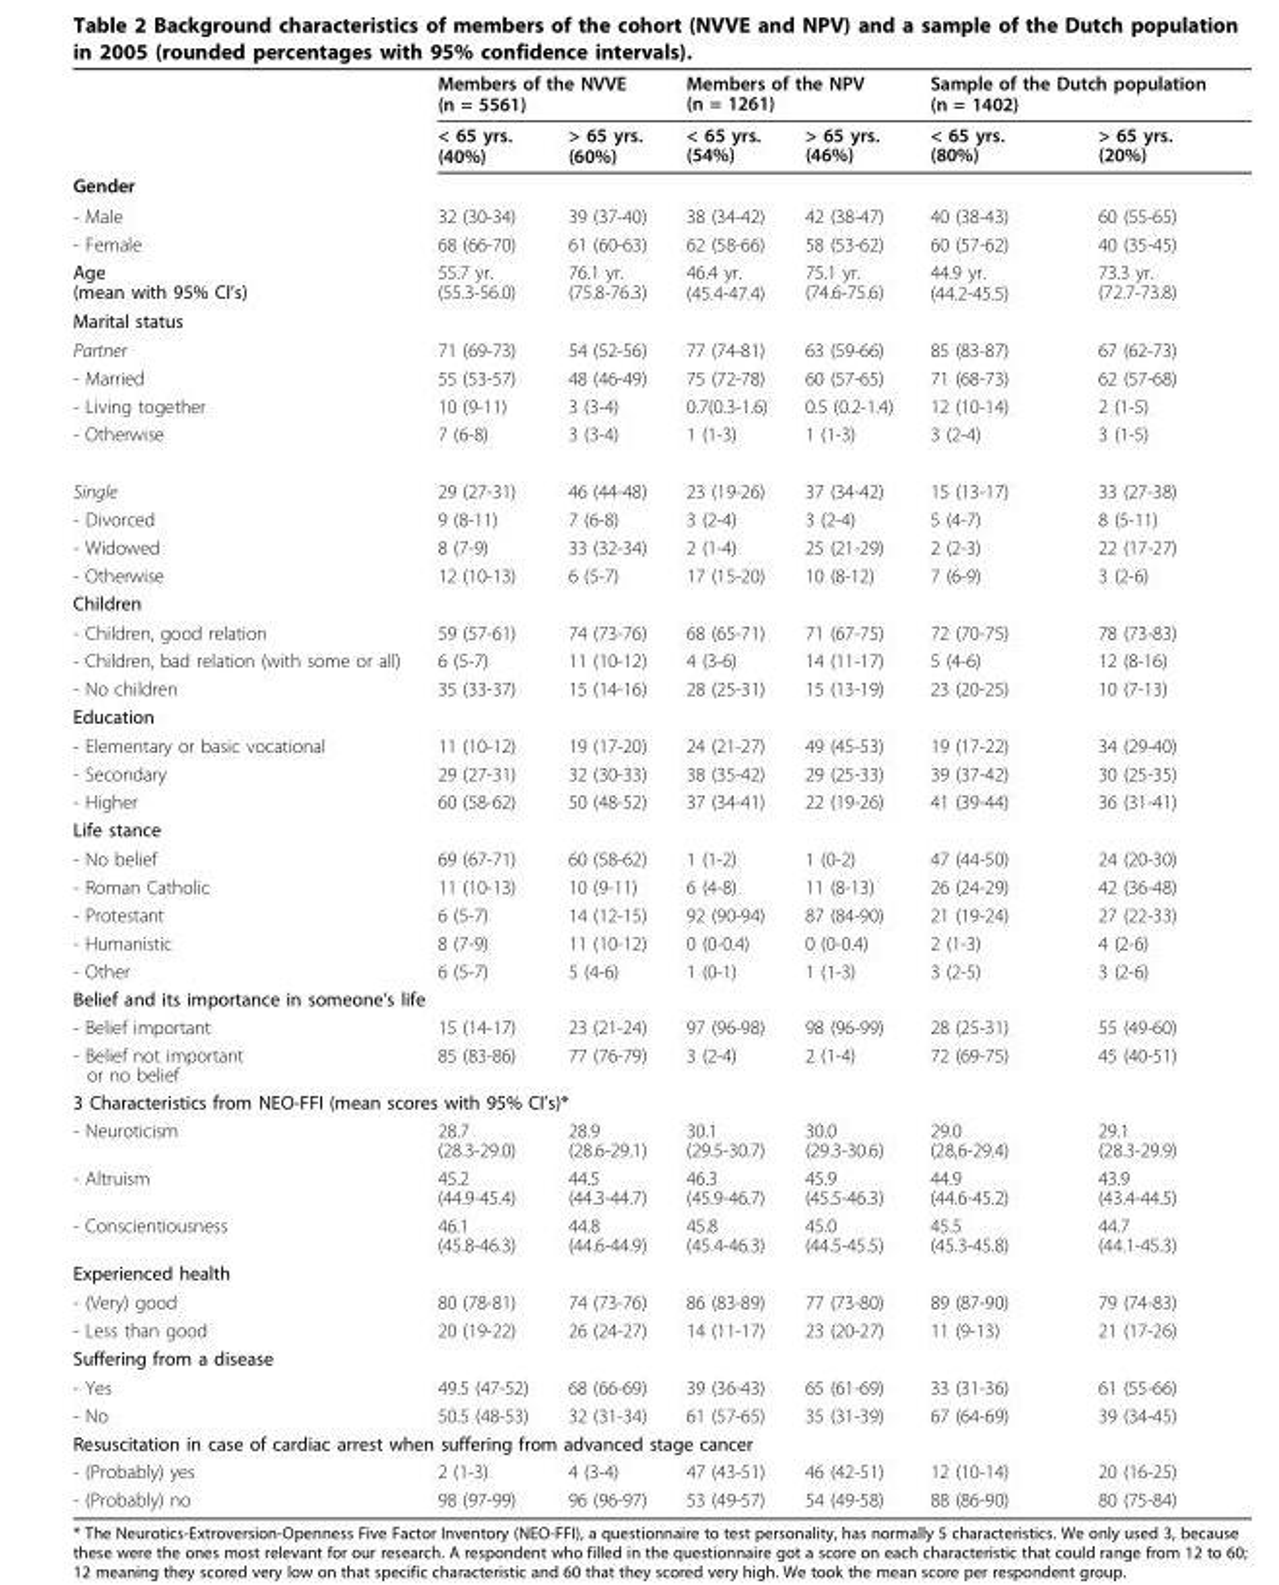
<table><thead><tr><td rowspan="2"></td><td colspan="2">Members of the NVVE (n = 5561)</td><td colspan="2">Members of the NPV (n = 1261)</td><td colspan="2">Sample of the Dutch population (n = 1402)</td></tr><tr><td>&lt; 65 yrs. (40%)</td><td>&gt; 65 yrs. (60%)</td><td>&lt; 65 yrs. (54%)</td><td>&gt; 65 yrs. (46%)</td><td>&lt; 65 yrs. (80%)</td><td>&gt; 65 yrs. (20%)</td></tr></thead><tbody><tr><td colspan="7">Gender</td></tr><tr><td>- Male</td><td>32 (30-34)</td><td>39 (37-40)</td><td>38 (34-42)</td><td>42 (38-47)</td><td>40 (38-43)</td><td>60 (55-65)</td></tr><tr><td>- Female</td><td>68 (66-70)</td><td>61 (60-63)</td><td>62 (58-66)</td><td>58 (53-62)</td><td>60 (57-62)</td><td>40 (35-45)</td></tr><tr><td>Age (mean with 95% CI’s)</td><td>55.7 yr. (55.3-56.0)</td><td>76.1 yr. (75.8-76.3)</td><td>46.4 yr. (45.4-47.4)</td><td>75.1 yr. (74.6-75.6)</td><td>44.9 yr. (44.2-45.5)</td><td>73.3 yr. (72.7-73.8)</td></tr><tr><td colspan="7">Marital status</td></tr><tr><td>Partner</td><td>71 (69-73)</td><td>54 (52-56)</td><td>77 (74-81)</td><td>63 (59-66)</td><td>85 (83-87)</td><td>67 (62-73)</td></tr><tr><td>- Married</td><td>55 (53-57)</td><td>48 (46-49)</td><td>75 (72-78)</td><td>60 (57-65)</td><td>71 (68-73)</td><td>62 (57-68)</td></tr><tr><td>- Living together</td><td>10 (9-11)</td><td>3 (3-4)</td><td>0.7(0.3-1.6)</td><td>0.5 (0.2-1.4)</td><td>12 (10-14)</td><td>2 (1-5)</td></tr><tr><td>- Otherwise</td><td>7 (6-8)</td><td>3 (3-4)</td><td>1 (1-3)</td><td>1 (1-3)</td><td>3 (2-4)</td><td>3 (1-5)</td></tr><tr><td>Single</td><td>29 (27-31)</td><td>46 (44-48)</td><td>23 (19-26)</td><td>37 (34-42)</td><td>15 (13-17)</td><td>33 (27-38)</td></tr><tr><td>- Divorced</td><td>9 (8-11)</td><td>7 (6-8)</td><td>3 (2-4)</td><td>3 (2-4)</td><td>5 (4-7)</td><td>8 (5-11)</td></tr><tr><td>- Widowed</td><td>8 (7-9)</td><td>33 (32-34)</td><td>2 (1-4)</td><td>25 (21-29)</td><td>2 (2-3)</td><td>22 (17-27)</td></tr><tr><td>- Otherwise</td><td>12 (10-13)</td><td>6 (5-7)</td><td>17 (15-20)</td><td>10 (8-12)</td><td>7 (6-9)</td><td>3 (2-6)</td></tr><tr><td colspan="7">Children</td></tr><tr><td>- Children, good relation</td><td>59 (57-61)</td><td>74 (73-76)</td><td>68 (65-71)</td><td>71 (67-75)</td><td>72 (70-75)</td><td>78 (73-83)</td></tr><tr><td>- Children, bad relation (with some or all)</td><td>6 (5-7)</td><td>11 (10-12)</td><td>4 (3-6)</td><td>14 (11-17)</td><td>5 (4-6)</td><td>12 (8-16)</td></tr><tr><td>- No children</td><td>35 (33-37)</td><td>15 (14-16)</td><td>28 (25-31)</td><td>15 (13-19)</td><td>23 (20-25)</td><td>10 (7-13)</td></tr><tr><td colspan="7">Education</td></tr><tr><td>- Elementary or basic vocational</td><td>11 (10-12)</td><td>19 (17-20)</td><td>24 (21-27)</td><td>49 (45-53)</td><td>19 (17-22)</td><td>34 (29-40)</td></tr><tr><td>- Secondary</td><td>29 (27-31)</td><td>32 (30-33)</td><td>38 (35-42)</td><td>29 (25-33)</td><td>39 (37-42)</td><td>30 (25-35)</td></tr><tr><td>- Higher</td><td>60 (58-62)</td><td>50 (48-52)</td><td>37 (34-41)</td><td>22 (19-26)</td><td>41 (39-44)</td><td>36 (31-41)</td></tr><tr><td colspan="7">Life stance</td></tr><tr><td>- No belief</td><td>69 (67-71)</td><td>60 (58-62)</td><td>1 (1-2)</td><td>1 (0-2)</td><td>47 (44-50)</td><td>24 (20-30)</td></tr><tr><td>- Roman Catholic</td><td>11 (10-13)</td><td>10 (9-11)</td><td>6 (4-8)</td><td>11 (8-13)</td><td>26 (24-29)</td><td>42 (36-48)</td></tr><tr><td>- Protestant</td><td>6 (5-7)</td><td>14 (12-15)</td><td>92 (90-94)</td><td>87 (84-90)</td><td>21 (19-24)</td><td>27 (22-33)</td></tr><tr><td>- Humanistic</td><td>8 (7-9)</td><td>11 (10-12)</td><td>0 (0-0.4)</td><td>0 (0-0.4)</td><td>2 (1-3)</td><td>4 (2-6)</td></tr><tr><td>- Other</td><td>6 (5-7)</td><td>5 (4-6)</td><td>1 (0-1)</td><td>1 (1-3)</td><td>3 (2-5)</td><td>3 (2-6)</td></tr><tr><td colspan="7">Belief and its importance in someone’s life</td></tr><tr><td>- Belief important</td><td>15 (14-17)</td><td>23 (21-24)</td><td>97 (96-98)</td><td>98 (96-99)</td><td>28 (25-31)</td><td>55 (49-60)</td></tr><tr><td>- Belief not important or no belief</td><td>85 (83-86)</td><td>77 (76-79)</td><td>3 (2-4)</td><td>2 (1-4)</td><td>72 (69-75)</td><td>45 (40-51)</td></tr><tr><td colspan="7">3 Characteristics from NEO-FFI (mean scores with 95% CI’s)*</td></tr><tr><td>- Neuroticism</td><td>28.7 (28.3-29.0)</td><td>28.9 (28.6-29.1)</td><td>30.1 (29.5-30.7)</td><td>30.0 (29.3-30.6)</td><td>29.0 (28,6-29.4)</td><td>29.1 (28.3-29.9)</td></tr><tr><td>- Altruism</td><td>45.2 (44.9-45.4)</td><td>44.5 (44.3-44.7)</td><td>46.3 (45.9-46.7)</td><td>45.9 (45.5-46.3)</td><td>44.9 (44.6-45.2)</td><td>43.9 (43.4-44.5)</td></tr><tr><td>- Conscientiousness</td><td>46.1 (45.8-46.3)</td><td>44.8 (44.6-44.9)</td><td>45.8 (45.4-46.3)</td><td>45.0 (44.5-45.5)</td><td>45.5 (45.3-45.8)</td><td>44.7 (44.1-45.3)</td></tr><tr><td colspan="7">Experienced health</td></tr><tr><td>- (Very) good</td><td>80 (78-81)</td><td>74 (73-76)</td><td>86 (83-89)</td><td>77 (73-80)</td><td>89 (87-90)</td><td>79 (74-83)</td></tr><tr><td>- Less than good</td><td>20 (19-22)</td><td>26 (24-27)</td><td>14 (11-17)</td><td>23 (20-27)</td><td>11 (9-13)</td><td>21 (17-26)</td></tr><tr><td colspan="7">Suffering from a disease</td></tr><tr><td>- Yes</td><td>49.5 (47-52)</td><td>68 (66-69)</td><td>39 (36-43)</td><td>65 (61-69)</td><td>33 (31-36)</td><td>61 (55-66)</td></tr><tr><td>- No</td><td>50.5 (48-53)</td><td>32 (31-34)</td><td>61 (57-65)</td><td>35 (31-39)</td><td>67 (64-69)</td><td>39 (34-45)</td></tr><tr><td colspan="7">Resuscitation in case of cardiac arrest when suffering from advanced stage cancer</td></tr><tr><td>- (Probably) yes</td><td>2 (1-3)</td><td>4 (3-4)</td><td>47 (43-51)</td><td>46 (42-51)</td><td>12 (10-14)</td><td>20 (16-25)</td></tr><tr><td>- (Probably) no</td><td>98 (97-99)</td><td>96 (96-97)</td><td>53 (49-57)</td><td>54 (49-58)</td><td>88 (86-90)</td><td>80 (75-84)</td></tr></tbody></table>